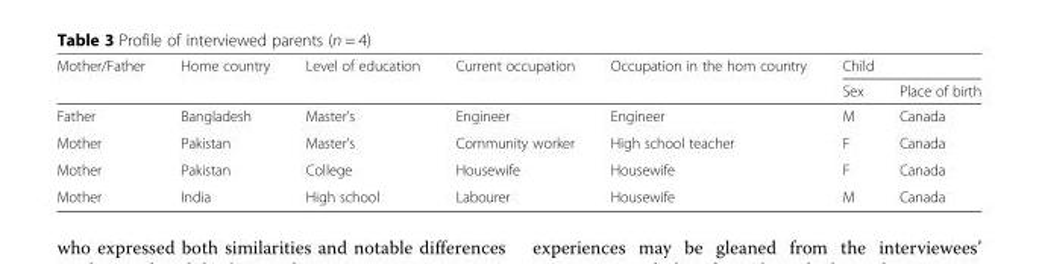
<table><thead><tr><td rowspan="2">Mother/Father</td><td rowspan="2">Home country</td><td rowspan="2">Level of education</td><td rowspan="2">Current occupation</td><td rowspan="2">Occupation in the hom country</td><td colspan="2">Child</td></tr><tr><td>Sex</td><td>Place of birth</td></tr></thead><tbody><tr><td>Father</td><td>Bangladesh</td><td>Master’s</td><td>Engineer</td><td>Engineer</td><td>M</td><td>Canada</td></tr><tr><td>Mother</td><td>Pakistan</td><td>Master’s</td><td>Community worker</td><td>High school teacher</td><td>F</td><td>Canada</td></tr><tr><td>Mother</td><td>Pakistan</td><td>College</td><td>Housewife</td><td>Housewife</td><td>F</td><td>Canada</td></tr><tr><td>Mother</td><td>India</td><td>High school</td><td>Labourer</td><td>Housewife</td><td>M</td><td>Canada</td></tr></tbody></table>